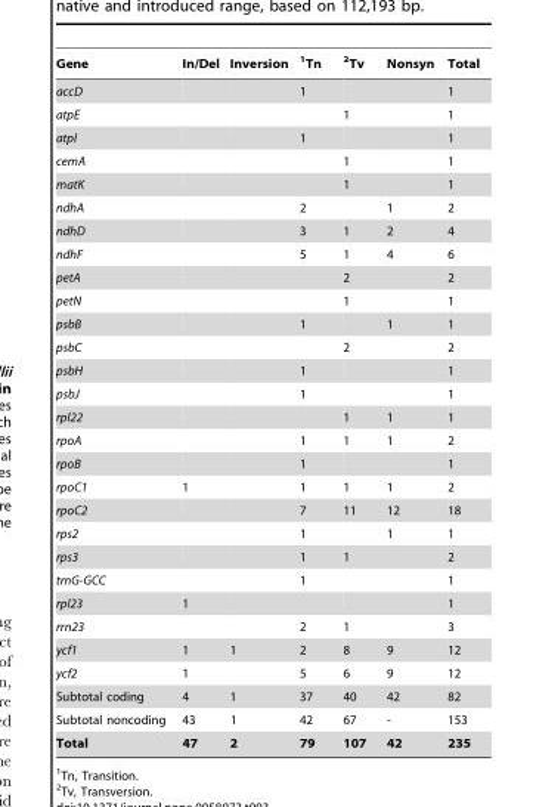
<table><thead><tr><td>Gene</td><td>In/Del</td><td>Inversion</td><td>1Tn</td><td>2Tv</td><td>Nonsyn</td><td>Total</td></tr></thead><tbody><tr><td>accD</td><td></td><td></td><td>1</td><td></td><td></td><td>1</td></tr><tr><td>atpE</td><td></td><td></td><td></td><td>1</td><td></td><td>1</td></tr><tr><td>atpI</td><td></td><td></td><td>1</td><td></td><td></td><td>1</td></tr><tr><td>cemA</td><td></td><td></td><td></td><td>1</td><td></td><td>1</td></tr><tr><td>matK</td><td></td><td></td><td></td><td>1</td><td></td><td>1</td></tr><tr><td>ndhA</td><td></td><td></td><td>2</td><td></td><td>1</td><td>2</td></tr><tr><td>ndhD</td><td></td><td></td><td>3</td><td>1</td><td>2</td><td>4</td></tr><tr><td>ndhF</td><td></td><td></td><td>5</td><td>1</td><td>4</td><td>6</td></tr><tr><td>petA</td><td></td><td></td><td></td><td>2</td><td></td><td>2</td></tr><tr><td>petN</td><td></td><td></td><td></td><td>1</td><td></td><td>1</td></tr><tr><td>psbB</td><td></td><td></td><td>1</td><td></td><td>1</td><td>1</td></tr><tr><td>psbC</td><td></td><td></td><td></td><td>2</td><td></td><td>2</td></tr><tr><td>psbH</td><td></td><td></td><td>1</td><td></td><td></td><td>1</td></tr><tr><td>psbJ</td><td></td><td></td><td>1</td><td></td><td></td><td>1</td></tr><tr><td>rpl22</td><td></td><td></td><td></td><td>1</td><td>1</td><td>1</td></tr><tr><td>rpoA</td><td></td><td></td><td>1</td><td>1</td><td>1</td><td>2</td></tr><tr><td>rpoB</td><td></td><td></td><td>1</td><td></td><td></td><td>1</td></tr><tr><td>rpoC1</td><td>1</td><td></td><td>1</td><td>1</td><td>1</td><td>2</td></tr><tr><td>rpoC2</td><td></td><td></td><td>7</td><td>11</td><td>12</td><td>18</td></tr><tr><td>rps2</td><td></td><td></td><td>1</td><td></td><td>1</td><td>1</td></tr><tr><td>rps3</td><td></td><td></td><td>1</td><td>1</td><td></td><td>2</td></tr><tr><td>trnG-GCC</td><td></td><td></td><td>1</td><td></td><td></td><td>1</td></tr><tr><td>rpl23</td><td>1</td><td></td><td></td><td></td><td></td><td>1</td></tr><tr><td>rrn23</td><td></td><td></td><td>2</td><td>1</td><td></td><td>3</td></tr><tr><td>ycf1</td><td>1</td><td>1</td><td>2</td><td>8</td><td>9</td><td>12</td></tr><tr><td>ycf2</td><td>1</td><td></td><td>5</td><td>6</td><td>9</td><td>12</td></tr><tr><td>Subtotal coding</td><td>4</td><td>1</td><td>37</td><td>40</td><td>42</td><td>82</td></tr><tr><td>Subtotal noncoding</td><td>43</td><td>1</td><td>42</td><td>67</td><td>-</td><td>153</td></tr><tr><td>Total</td><td>47</td><td>2</td><td>79</td><td>107</td><td>42</td><td>235</td></tr></tbody></table>